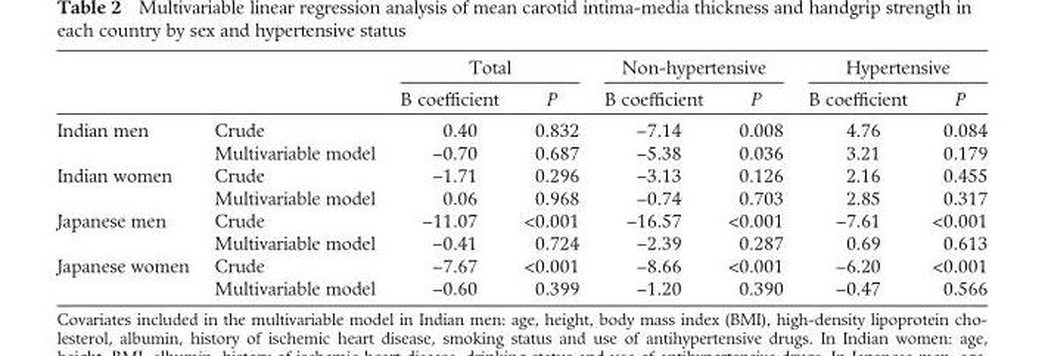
<table><thead><tr><td rowspan="2"></td><td rowspan="2"></td><td colspan="2">Total</td><td colspan="2">Non-hypertensive</td><td colspan="2">Hypertensive</td></tr><tr><td>B coefficient</td><td>P</td><td>B coefficient</td><td>P</td><td>B coefficient</td><td>P</td></tr></thead><tbody><tr><td rowspan="2">Indian men</td><td>Crude</td><td>0.40</td><td>0.832</td><td>−7.14</td><td>0.008</td><td>4.76</td><td>0.084</td></tr><tr><td>Multivariable model</td><td>−0.70</td><td>0.687</td><td>−5.38</td><td>0.036</td><td>3.21</td><td>0.179</td></tr><tr><td rowspan="2">Indian women</td><td>Crude</td><td>−1.71</td><td>0.296</td><td>−3.13</td><td>0.126</td><td>2.16</td><td>0.455</td></tr><tr><td>Multivariable model</td><td>0.06</td><td>0.968</td><td>−0.74</td><td>0.703</td><td>2.85</td><td>0.317</td></tr><tr><td rowspan="2">Japanese men</td><td>Crude</td><td>−11.07</td><td>&lt;0.001</td><td>−16.57</td><td>&lt;0.001</td><td>−7.61</td><td>&lt;0.001</td></tr><tr><td>Multivariable model</td><td>−0.41</td><td>0.724</td><td>−2.39</td><td>0.287</td><td>0.69</td><td>0.613</td></tr><tr><td rowspan="2">Japanese women</td><td>Crude</td><td>−7.67</td><td>&lt;0.001</td><td>−8.66</td><td>&lt;0.001</td><td>−6.20</td><td>&lt;0.001</td></tr><tr><td>Multivariable model</td><td>−0.60</td><td>0.399</td><td>−1.20</td><td>0.390</td><td>−0.47</td><td>0.566</td></tr></tbody></table>